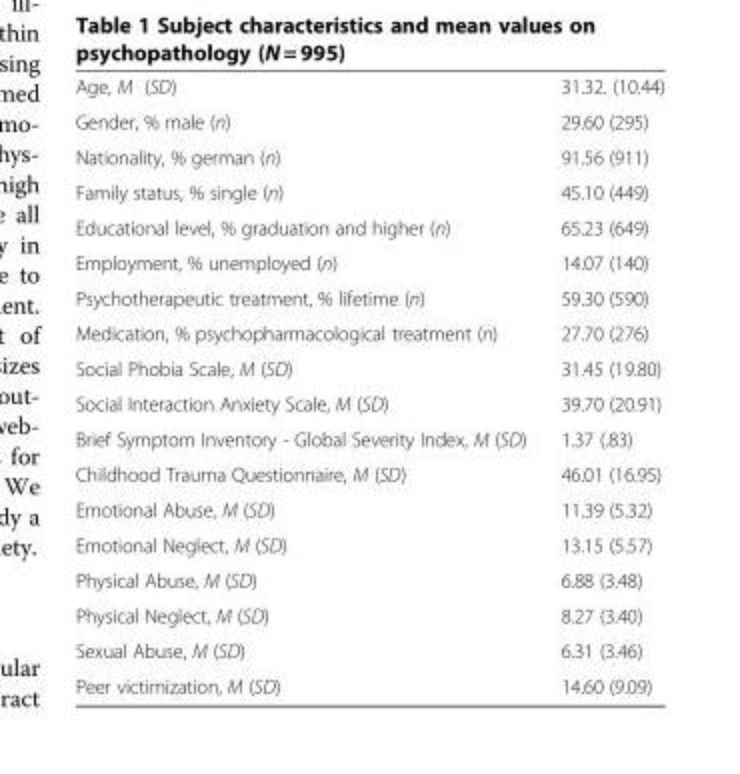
<table><tbody><tr><td>Age, M (SD)</td><td>31.32. (10.44)</td></tr><tr><td>Gender, % male (n)</td><td>29.60 (295)</td></tr><tr><td>Nationality, % german (n)</td><td>91.56 (911)</td></tr><tr><td>Family status, % single (n)</td><td>45.10 (449)</td></tr><tr><td>Educational level, % graduation and higher (n)</td><td>65.23 (649)</td></tr><tr><td>Employment, % unemployed (n)</td><td>14.07 (140)</td></tr><tr><td>Psychotherapeutic treatment, % lifetime (n)</td><td>59.30 (590)</td></tr><tr><td>Medication, % psychopharmacological treatment (n)</td><td>27.70 (276)</td></tr><tr><td>Social Phobia Scale, M (SD)</td><td>31.45 (19.80)</td></tr><tr><td>Social Interaction Anxiety Scale, M (SD)</td><td>39.70 (20.91)</td></tr><tr><td>Brief Symptom Inventory - Global Severity Index, M (SD)</td><td>1.37 (.83)</td></tr><tr><td>Childhood Trauma Questionnaire, M (SD)</td><td>46.01 (16.95)</td></tr><tr><td>Emotional Abuse, M (SD)</td><td>11.39 (5.32)</td></tr><tr><td>Emotional Neglect, M (SD)</td><td>13.15 (5.57)</td></tr><tr><td>Physical Abuse, M (SD)</td><td>6.88 (3.48)</td></tr><tr><td>Physical Neglect, M (SD)</td><td>8.27 (3.40)</td></tr><tr><td>Sexual Abuse, M (SD)</td><td>6.31 (3.46)</td></tr><tr><td>Peer victimization, M (SD)</td><td>14.60 (9.09)</td></tr></tbody></table>